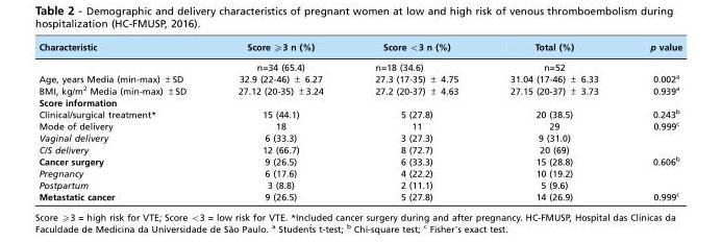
<table><thead><tr><td>Characteristic</td><td>Score ≥3 n (%)</td><td>Score &lt;3 n (%)</td><td>Total (%)</td><td>p value</td></tr></thead><tbody><tr><td></td><td>n=34 (65.4)</td><td>n=18 (34.6)</td><td>n=52</td><td></td></tr><tr><td>Age, years Media (min-max) ±SD</td><td>32.9 (22-46) ± 6.27</td><td>27.3 (17-35) ± 4.75</td><td>31.04 (17-46) ± 6.33</td><td>0.002<sup>a</sup></td></tr><tr><td>BMI, kg/m<sup>2</sup> Media (min-max) ±SD</td><td>27.12 (20-35) ±3.24</td><td>27.2 (20-37) ± 4.63</td><td>27.15 (20-37) ± 3.73</td><td>0.939<sup>a</sup></td></tr><tr><td colspan="5">Score information</td></tr><tr><td>Clinical/surgical treatment*</td><td>15 (44.1)</td><td>5 (27.8)</td><td>20 (38.5)</td><td>0.243<sup>b</sup></td></tr><tr><td>Mode of delivery</td><td>18</td><td>11</td><td>29</td><td>0.999<sup>c</sup></td></tr><tr><td>Vaginal delivery</td><td>6 (33.3)</td><td>3 (27.3)</td><td>9 (31.0)</td><td></td></tr><tr><td>C/S delivery</td><td>12 (66.7)</td><td>8 (72.7)</td><td>20 (69)</td><td></td></tr><tr><td>Cancer surgery</td><td>9 (26.5)</td><td>6 (33.3)</td><td>15 (28.8)</td><td>0.606<sup>b</sup></td></tr><tr><td>Pregnancy</td><td>6 (17.6)</td><td>4 (22.2)</td><td>10 (19.2)</td><td></td></tr><tr><td>Postpartum</td><td>3 (8.8)</td><td>2 (11.1)</td><td>5 (9.6)</td><td></td></tr><tr><td>Metastatic cancer</td><td>9 (26.5)</td><td>5 (27.8)</td><td>14 (26.9)</td><td>0.999<sup>c</sup></td></tr></tbody></table>